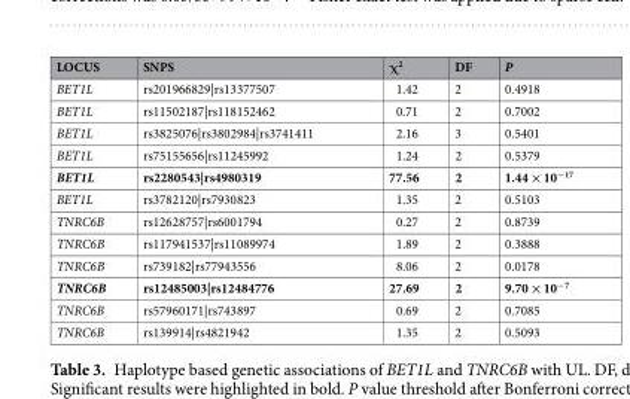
<table><thead><tr><td>LOCUS</td><td>SNPS</td><td>χ<sup>2</sup></td><td>DF</td><td>P</td></tr></thead><tbody><tr><td>BET1L</td><td>rs201966829|rs13377507</td><td>1.42</td><td>2</td><td>0.4918</td></tr><tr><td>BET1L</td><td>rs11502187|rs118152462</td><td>0.71</td><td>2</td><td>0.7002</td></tr><tr><td>BET1L</td><td>rs3825076|rs3802984|rs3741411</td><td>2.16</td><td>3</td><td>0.5401</td></tr><tr><td>BET1L</td><td>rs75155656|rs11245992</td><td>1.24</td><td>2</td><td>0.5379</td></tr><tr><td>BET1L</td><td>rs2280543|rs4980319</td><td>77.56</td><td>2</td><td>1.44 × 10<sup>−17</sup></td></tr><tr><td>BET1L</td><td>rs3782120|rs7930823</td><td>1.35</td><td>2</td><td>0.5103</td></tr><tr><td>TNRC6B</td><td>rs12628757|rs6001794</td><td>0.27</td><td>2</td><td>0.8739</td></tr><tr><td>TNRC6B</td><td>rs117941537|rs11089974</td><td>1.89</td><td>2</td><td>0.3888</td></tr><tr><td>TNRC6B</td><td>rs739182|rs77943556</td><td>8.06</td><td>2</td><td>0.0178</td></tr><tr><td>TNRC6B</td><td>rs12485003|rs12484776</td><td>27.69</td><td>2</td><td>9.70 × 10<sup>−7</sup></td></tr><tr><td>TNRC6B</td><td>rs57960171|rs743897</td><td>0.69</td><td>2</td><td>0.7085</td></tr><tr><td>TNRC6B</td><td>rs139914|rs4821942</td><td>1.35</td><td>2</td><td>0.5093</td></tr></tbody></table>